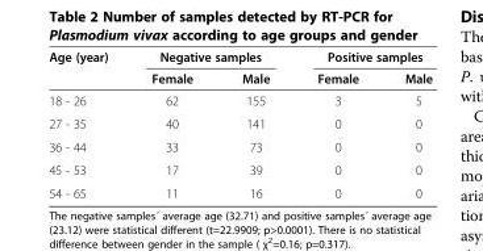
<table><thead><tr><td rowspan="2">Age (year)</td><td colspan="2">Negative samples</td><td colspan="2">Positive samples</td></tr><tr><td>Female</td><td>Male</td><td>Female</td><td>Male</td></tr></thead><tbody><tr><td>18 - 26</td><td>62</td><td>155</td><td>3</td><td>5</td></tr><tr><td>27 - 35</td><td>40</td><td>141</td><td>0</td><td>0</td></tr><tr><td>36 - 44</td><td>33</td><td>73</td><td>0</td><td>0</td></tr><tr><td>45 - 53</td><td>17</td><td>39</td><td>0</td><td>0</td></tr><tr><td>54 - 65</td><td>11</td><td>16</td><td>0</td><td>0</td></tr></tbody></table>